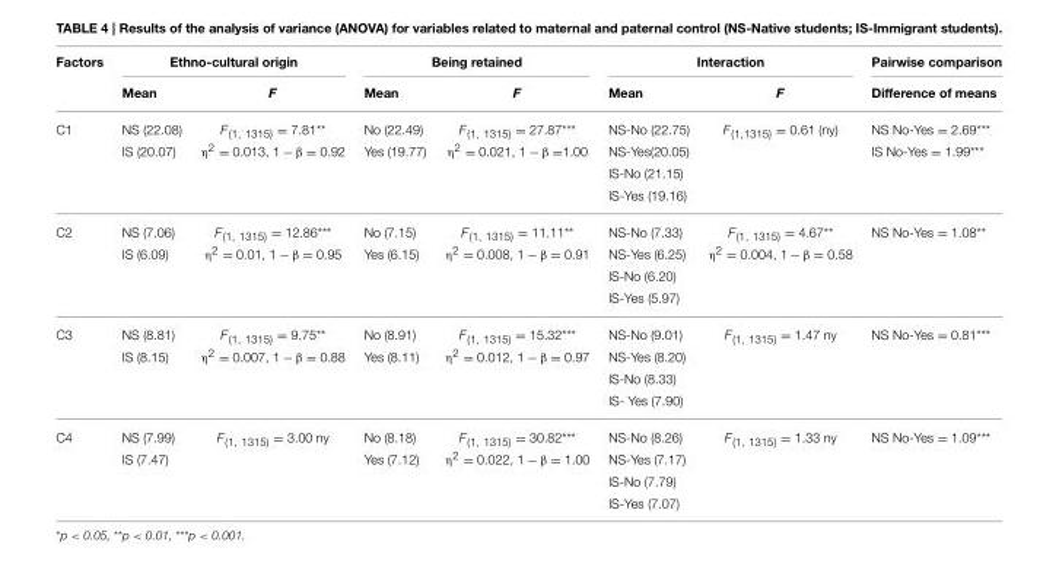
<table><thead><tr><td rowspan="2">Factors</td><td colspan="2">Ethno-cultural origin</td><td colspan="2">Being retained</td><td colspan="2">Interaction</td><td rowspan="2">Pairwise comparison Difference of means</td></tr><tr><td>Mean</td><td>F</td><td>Mean</td><td>F</td><td>Mean</td><td>F</td></tr></thead><tbody><tr><td rowspan="4">C1</td><td>NS (22.08)</td><td>F<sub>(1, 1315)</sub> = 7.81**</td><td>No (22.49)</td><td>F<sub>(1, 1315)</sub> = 27.87***</td><td>NS-No (22.75)</td><td>F<sub>(1,1315)</sub> = 0.61 (ny)</td><td>NS No-Yes = 2.69***</td></tr><tr><td>IS (20.07)</td><td>η<sup>2</sup> = 0.013, 1 − β = 0.92</td><td>Yes (19.77)</td><td>η<sup>2</sup> = 0.021, 1 − β =1.00</td><td>NS-Yes(20.05)</td><td></td><td>IS No-Yes = 1.99***</td></tr><tr><td></td><td></td><td></td><td></td><td>IS-No (21.15)</td><td></td><td></td></tr><tr><td></td><td></td><td></td><td></td><td>IS-Yes (19.16)</td><td></td><td></td></tr><tr><td rowspan="4">C2</td><td>NS (7.06)</td><td>F<sub>(1, 1315)</sub> = 12.86***</td><td>No (7.15)</td><td>F<sub>(1, 1315)</sub> = 11.11**</td><td>NS-No (7.33)</td><td>F<sub>(1, 1315)</sub> = 4.67**</td><td>NS No-Yes = 1.08**</td></tr><tr><td>IS (6.09)</td><td>η<sup>2</sup> = 0.01, 1 − β = 0.95</td><td>Yes (6.15)</td><td>η<sup>2</sup> = 0.008, 1 − β = 0.91</td><td>NS-Yes (6.25)</td><td>η<sup>2</sup> = 0.004, 1 − β = 0.58</td><td></td></tr><tr><td></td><td></td><td></td><td></td><td>IS-No (6.20)</td><td></td><td></td></tr><tr><td></td><td></td><td></td><td></td><td>IS-Yes (5.97)</td><td></td><td></td></tr><tr><td rowspan="4">C3</td><td>NS (8.81)</td><td>F<sub>(1, 1315)</sub> = 9.75**</td><td>No (8.91)</td><td>F<sub>(1, 1315)</sub> = 15.32***</td><td>NS-No (9.01)</td><td>F<sub>(1, 1315)</sub> = 1.47 ny</td><td>NS No-Yes = 0.81***</td></tr><tr><td>IS (8.15)</td><td>η<sup>2</sup> = 0.007, 1 − β = 0.88</td><td>Yes (8.11)</td><td>η<sup>2</sup> = 0.012, 1 − β = 0.97</td><td>NS-Yes (8.20)</td><td></td><td></td></tr><tr><td></td><td></td><td></td><td></td><td>IS-No (8.33)</td><td></td><td></td></tr><tr><td></td><td></td><td></td><td></td><td>IS- Yes (7.90)</td><td></td><td></td></tr><tr><td rowspan="4">C4</td><td>NS (7.99)</td><td>F<sub>(1, 1315)</sub> = 3.00 ny</td><td>No (8.18)</td><td>F<sub>(1, 1315)</sub> = 30.82***</td><td>NS-No (8.26)</td><td>F<sub>(1, 1315)</sub> = 1.33 ny</td><td>NS No-Yes = 1.09***</td></tr><tr><td>IS (7.47)</td><td></td><td>Yes (7.12)</td><td>η<sup>2</sup> = 0.022, 1 − β = 1.00</td><td>NS-Yes (7.17)</td><td></td><td></td></tr><tr><td></td><td></td><td></td><td></td><td>IS-No (7.79)</td><td></td><td></td></tr><tr><td></td><td></td><td></td><td></td><td>IS-Yes (7.07)</td><td></td><td></td></tr></tbody></table>